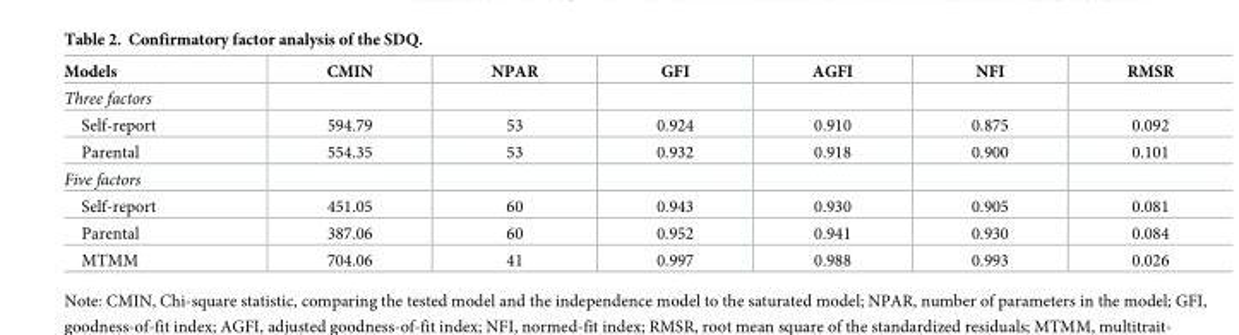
<table><thead><tr><td>Models</td><td>CMIN</td><td>NPAR</td><td>GFI</td><td>AGFI</td><td>NFI</td><td>RMSR</td></tr></thead><tbody><tr><td colspan="7">Three factors</td></tr><tr><td>Self-report</td><td>594.79</td><td>53</td><td>0.924</td><td>0.910</td><td>0.875</td><td>0.092</td></tr><tr><td>Parental</td><td>554.35</td><td>53</td><td>0.932</td><td>0.918</td><td>0.900</td><td>0.101</td></tr><tr><td colspan="7">Five factors</td></tr><tr><td>Self-report</td><td>451.05</td><td>60</td><td>0.943</td><td>0.930</td><td>0.905</td><td>0.081</td></tr><tr><td>Parental</td><td>387.06</td><td>60</td><td>0.952</td><td>0.941</td><td>0.930</td><td>0.084</td></tr><tr><td>MTMM</td><td>704.06</td><td>41</td><td>0.997</td><td>0.988</td><td>0.993</td><td>0.026</td></tr></tbody></table>